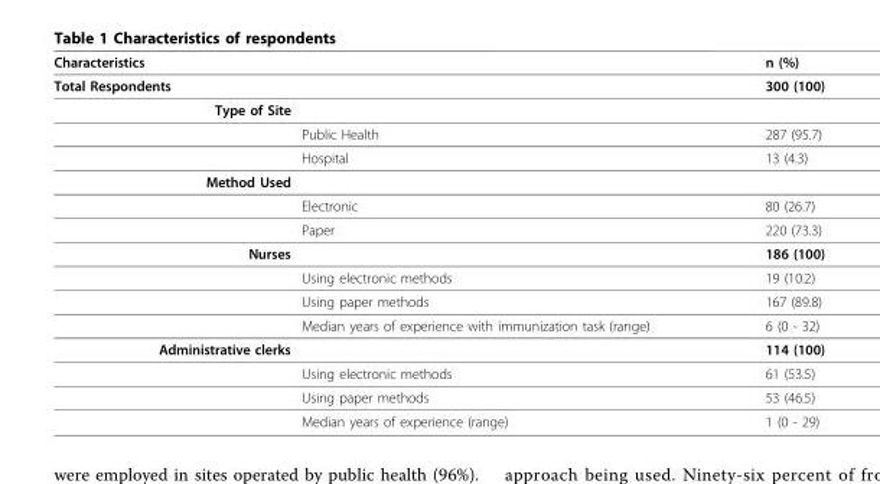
<table><thead><tr><td>Characteristics</td><td></td><td>n (%)</td></tr></thead><tbody><tr><td>Total Respondents</td><td></td><td>300 (100)</td></tr><tr><td colspan="3">Type of Site</td></tr><tr><td></td><td>Public Health</td><td>287 (95.7)</td></tr><tr><td></td><td>Hospital</td><td>13 (4.3)</td></tr><tr><td colspan="3">Method Used</td></tr><tr><td></td><td>Electronic</td><td>80 (26.7)</td></tr><tr><td></td><td>Paper</td><td>220 (73.3)</td></tr><tr><td rowspan="4">Nurses</td><td></td><td>186 (100)</td></tr><tr><td>Using electronic methods</td><td>19 (10.2)</td></tr><tr><td>Using paper methods</td><td>167 (89.8)</td></tr><tr><td>Median years of experience with immunization task (range)</td><td>6 (0 - 32)</td></tr><tr><td rowspan="4">Administrative clerks</td><td></td><td>114 (100)</td></tr><tr><td>Using electronic methods</td><td>61 (53.5)</td></tr><tr><td>Using paper methods</td><td>53 (46.5)</td></tr><tr><td>Median years of experience (range)</td><td>1 (0 - 29)</td></tr></tbody></table>